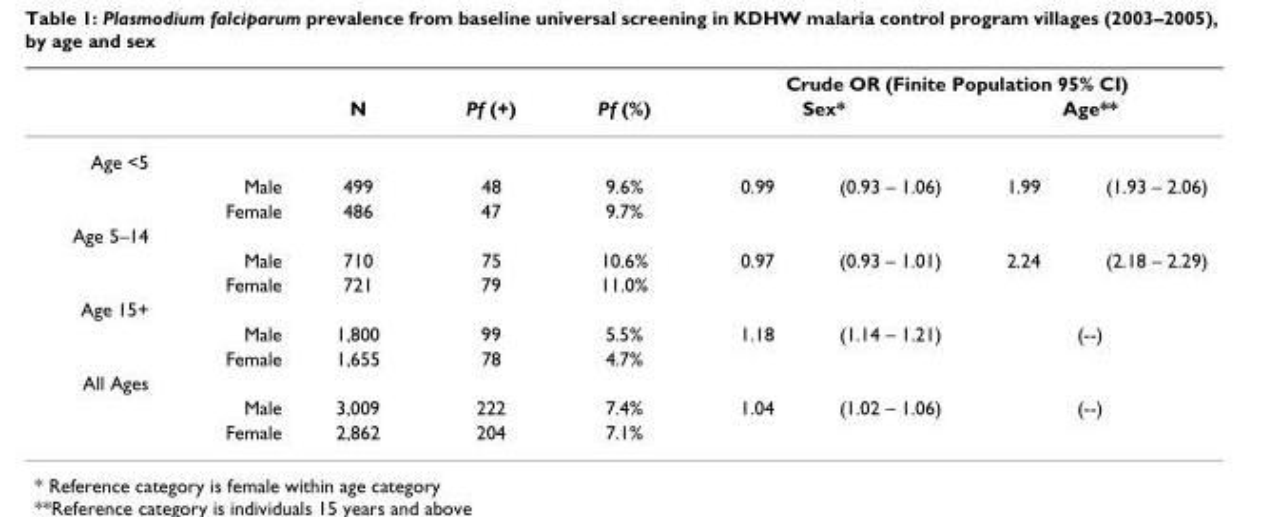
<table><thead><tr><td rowspan="3">Age &lt;5</td><td rowspan="3"></td><td rowspan="3">N</td><td rowspan="3">Pf (+)</td><td rowspan="3">Pf (%)</td><td colspan="4">Crude OR (Finite Population 95% CI)</td></tr><tr><td colspan="2">Sex*</td><td colspan="2">Age**</td></tr><tr><td></td><td></td><td></td><td></td></tr></thead><tbody><tr><td></td><td>Male</td><td>499</td><td>48</td><td>9.6%</td><td>0.99</td><td>(0.93 – 1.06)</td><td>1.99</td><td>(1.93 – 2.06)</td></tr><tr><td></td><td>Female</td><td>486</td><td>47</td><td>9.7%</td><td></td><td></td><td></td><td></td></tr><tr><td colspan="9">Age 5–14</td></tr><tr><td></td><td>Male</td><td>710</td><td>75</td><td>10.6%</td><td>0.97</td><td>(0.93 – 1.01)</td><td>2.24</td><td>(2.18 – 2.29)</td></tr><tr><td></td><td>Female</td><td>721</td><td>79</td><td>11.0%</td><td></td><td></td><td></td><td></td></tr><tr><td colspan="9">Age 15+</td></tr><tr><td></td><td>Male</td><td>1,800</td><td>99</td><td>5.5%</td><td>1.18</td><td>(1.14 – 1.21)</td><td colspan="2">(--)</td></tr><tr><td></td><td>Female</td><td>1,655</td><td>78</td><td>4.7%</td><td></td><td></td><td></td><td></td></tr><tr><td colspan="9">All Ages</td></tr><tr><td></td><td>Male</td><td>3,009</td><td>222</td><td>7.4%</td><td>1.04</td><td>(1.02 – 1.06)</td><td colspan="2">(--)</td></tr><tr><td></td><td>Female</td><td>2,862</td><td>204</td><td>7.1%</td><td></td><td></td><td></td><td></td></tr></tbody></table>